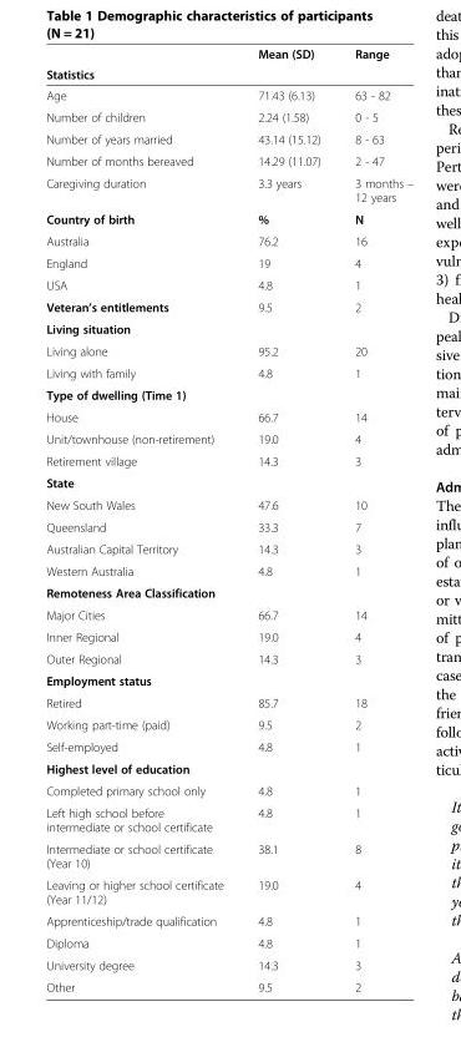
<table><thead><tr><td rowspan="2">Statistics</td><td rowspan="2">Mean (SD)</td><td rowspan="2">Range</td></tr><tr></tr></thead><tbody><tr><td>Age</td><td>71.43 (6.13)</td><td>63 - 82</td></tr><tr><td>Number of children</td><td>2.24 (1.58)</td><td>0 - 5</td></tr><tr><td>Number of years married</td><td>43.14 (15.12)</td><td>8 - 63</td></tr><tr><td>Number of months bereaved</td><td>14.29 (11.07)</td><td>2 - 47</td></tr><tr><td>Caregiving duration</td><td>3.3 years</td><td>3 months – 12 years</td></tr><tr><td>Country of birth</td><td>%</td><td>N</td></tr><tr><td>Australia</td><td>76.2</td><td>16</td></tr><tr><td>England</td><td>19</td><td>4</td></tr><tr><td>USA</td><td>4.8</td><td>1</td></tr><tr><td>Veteran’s entitlements</td><td>9.5</td><td>2</td></tr><tr><td colspan="3">Living situation</td></tr><tr><td>Living alone</td><td>95.2</td><td>20</td></tr><tr><td>Living with family</td><td>4.8</td><td>1</td></tr><tr><td colspan="3">Type of dwelling (Time 1)</td></tr><tr><td>House</td><td>66.7</td><td>14</td></tr><tr><td>Unit/townhouse (non-retirement)</td><td>19.0</td><td>4</td></tr><tr><td>Retirement village</td><td>14.3</td><td>3</td></tr><tr><td colspan="3">State</td></tr><tr><td>New South Wales</td><td>47.6</td><td>10</td></tr><tr><td>Queensland</td><td>33.3</td><td>7</td></tr><tr><td>Australian Capital Territory</td><td>14.3</td><td>3</td></tr><tr><td>Western Australia</td><td>4.8</td><td>1</td></tr><tr><td colspan="3">Remoteness Area Classification</td></tr><tr><td>Major Cities</td><td>66.7</td><td>14</td></tr><tr><td>Inner Regional</td><td>19.0</td><td>4</td></tr><tr><td>Outer Regional</td><td>14.3</td><td>3</td></tr><tr><td colspan="3">Employment status</td></tr><tr><td>Retired</td><td>85.7</td><td>18</td></tr><tr><td>Working part-time (paid)</td><td>9.5</td><td>2</td></tr><tr><td>Self-employed</td><td>4.8</td><td>1</td></tr><tr><td colspan="3">Highest level of education</td></tr><tr><td>Completed primary school only</td><td>4.8</td><td>1</td></tr><tr><td>Left high school before intermediate or school certificate</td><td>4.8</td><td>1</td></tr><tr><td>Intermediate or school certificate (Year 10)</td><td>38.1</td><td>8</td></tr><tr><td>Leaving or higher school certificate (Year 11/12)</td><td>19.0</td><td>4</td></tr><tr><td>Apprenticeship/trade qualification</td><td>4.8</td><td>1</td></tr><tr><td>Diploma</td><td>4.8</td><td>1</td></tr><tr><td>University degree</td><td>14.3</td><td>3</td></tr><tr><td>Other</td><td>9.5</td><td>2</td></tr></tbody></table>